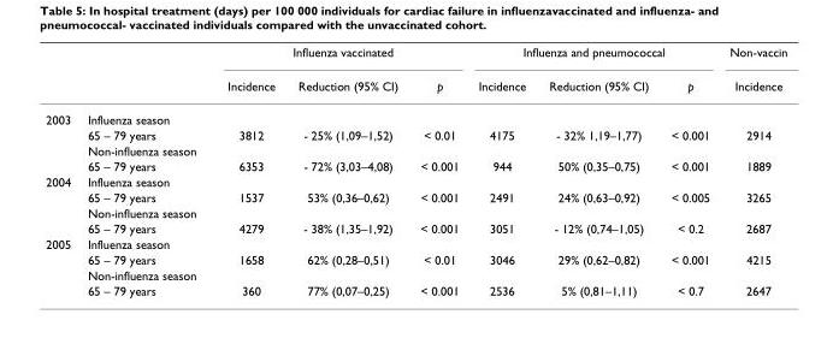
<table><thead><tr><td rowspan="2"></td><td rowspan="2"></td><td colspan="3">Influenza vaccinated</td><td colspan="3">Influenza and pneumococcal</td><td rowspan="2">Non-vaccin Incidence</td></tr><tr><td>Incidence</td><td>Reduction (95% CI)</td><td>p</td><td>Incidence</td><td>Reduction (95% CI)</td><td>p</td></tr></thead><tbody><tr><td rowspan="4">2003</td><td>Influenza season</td><td></td><td></td><td></td><td></td><td></td><td></td><td></td></tr><tr><td>65 – 79 years</td><td>3812</td><td>- 25% (1,09–1,52)</td><td>&lt; 0.01</td><td>4175</td><td>- 32% 1,19–1,77)</td><td>&lt; 0.001</td><td>2914</td></tr><tr><td>Non-influenza season</td><td></td><td></td><td></td><td></td><td></td><td></td><td></td></tr><tr><td>65 – 79 years</td><td>6353</td><td>- 72% (3,03–4,08)</td><td>&lt; 0.001</td><td>944</td><td>50% (0,35–0,75)</td><td>&lt; 0.001</td><td>1889</td></tr><tr><td rowspan="4">2004</td><td>Influenza season</td><td></td><td></td><td></td><td></td><td></td><td></td><td></td></tr><tr><td>65 – 79 years</td><td>1537</td><td>53% (0,36–0,62)</td><td>&lt; 0.001</td><td>2491</td><td>24% (0,63–0,92)</td><td>&lt; 0.005</td><td>3265</td></tr><tr><td>Non-influenza season</td><td></td><td></td><td></td><td></td><td></td><td></td><td></td></tr><tr><td>65 – 79 years</td><td>4279</td><td>- 38% (1,35–1,92)</td><td>&lt; 0.001</td><td>3051</td><td>- 12% (0,74–1,05)</td><td>&lt; 0.2</td><td>2687</td></tr><tr><td rowspan="4">2005</td><td>Influenza season</td><td></td><td></td><td></td><td></td><td></td><td></td><td></td></tr><tr><td>65 – 79 years</td><td>1658</td><td>62% (0,28–0,51)</td><td>&lt; 0.01</td><td>3046</td><td>29% (0,62–0,82)</td><td>&lt; 0.001</td><td>4215</td></tr><tr><td>Non-influenza season</td><td></td><td></td><td></td><td></td><td></td><td></td><td></td></tr><tr><td>65 – 79 years</td><td>360</td><td>77% (0,07–0,25)</td><td>&lt; 0.001</td><td>2536</td><td>5% (0,81–1,11)</td><td>&lt; 0.7</td><td>2647</td></tr></tbody></table>